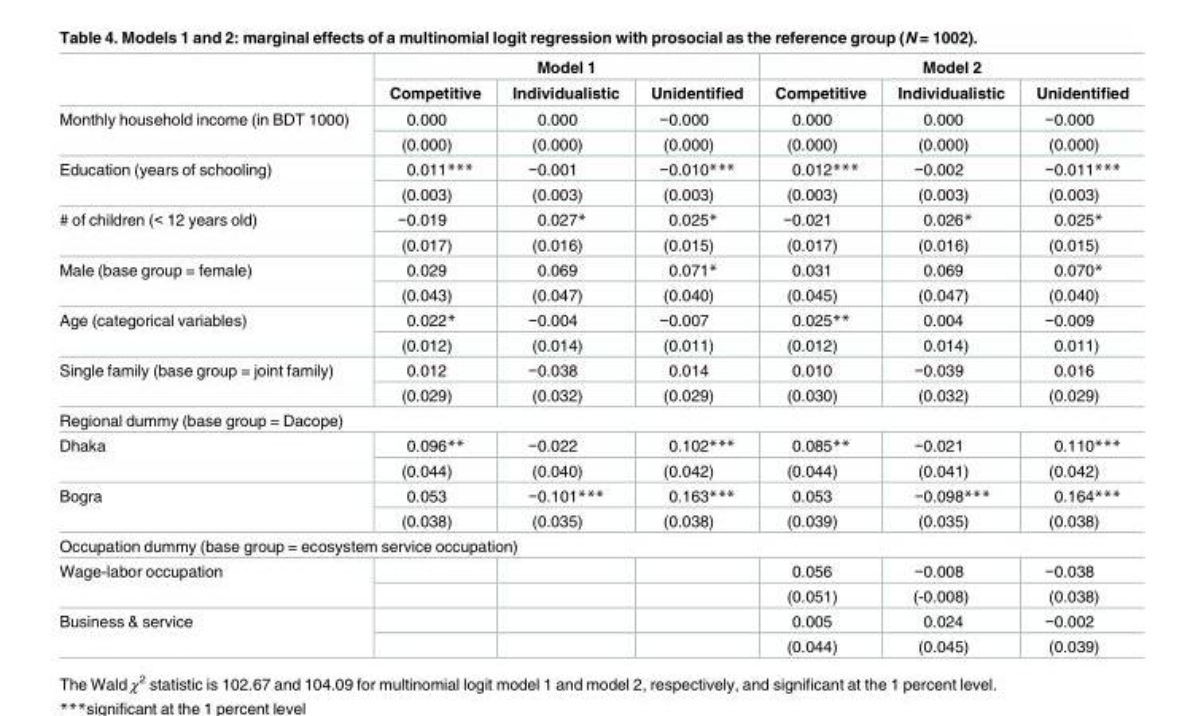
<table><thead><tr><td rowspan="2"></td><td colspan="3">Model 1</td><td colspan="3">Model 2</td></tr><tr><td>Competitive</td><td>Individualistic</td><td>Unidentified</td><td>Competitive</td><td>Individualistic</td><td>Unidentified</td></tr></thead><tbody><tr><td rowspan="2">Monthly household income (in BDT 1000)</td><td>0.000</td><td>0.000</td><td>−0.000</td><td>0.000</td><td>0.000</td><td>−0.000</td></tr><tr><td>(0.000)</td><td>(0.000)</td><td>(0.000)</td><td>(0.000)</td><td>(0.000)</td><td>(0.000)</td></tr><tr><td rowspan="2">Education (years of schooling)</td><td>0.011***</td><td>−0.001</td><td>−0.010***</td><td>0.012***</td><td>−0.002</td><td>−0.011***</td></tr><tr><td>(0.003)</td><td>(0.003)</td><td>(0.003)</td><td>(0.003)</td><td>(0.003)</td><td>(0.003)</td></tr><tr><td rowspan="2"># of children (&lt; 12 years old)</td><td>−0.019</td><td>0.027*</td><td>0.025*</td><td>−0.021</td><td>0.026*</td><td>0.025*</td></tr><tr><td>(0.017)</td><td>(0.016)</td><td>(0.015)</td><td>(0.017)</td><td>(0.016)</td><td>(0.015)</td></tr><tr><td rowspan="2">Male (base group = female)</td><td>0.029</td><td>0.069</td><td>0.071*</td><td>0.031</td><td>0.069</td><td>0.070*</td></tr><tr><td>(0.043)</td><td>(0.047)</td><td>(0.040)</td><td>(0.045)</td><td>(0.047)</td><td>(0.040)</td></tr><tr><td rowspan="2">Age (categorical variables)</td><td>0.022*</td><td>−0.004</td><td>−0.007</td><td>0.025**</td><td>0.004</td><td>−0.009</td></tr><tr><td>(0.012)</td><td>(0.014)</td><td>(0.011)</td><td>(0.012)</td><td>0.014)</td><td>0.011)</td></tr><tr><td rowspan="2">Single family (base group = joint family)</td><td>0.012</td><td>−0.038</td><td>0.014</td><td>0.010</td><td>−0.039</td><td>0.016</td></tr><tr><td>(0.029)</td><td>(0.032)</td><td>(0.029)</td><td>(0.030)</td><td>(0.032)</td><td>(0.029)</td></tr><tr><td colspan="7">Regional dummy (base group = Dacope)</td></tr><tr><td rowspan="2">Dhaka</td><td>0.096**</td><td>−0.022</td><td>0.102***</td><td>0.085**</td><td>−0.021</td><td>0.110***</td></tr><tr><td>(0.044)</td><td>(0.040)</td><td>(0.042)</td><td>(0.044)</td><td>(0.041)</td><td>(0.042)</td></tr><tr><td rowspan="2">Bogra</td><td>0.053</td><td>−0.101***</td><td>0.163***</td><td>0.053</td><td>−0.098***</td><td>0.164***</td></tr><tr><td>(0.038)</td><td>(0.035)</td><td>(0.038)</td><td>(0.039)</td><td>(0.035)</td><td>(0.038)</td></tr><tr><td colspan="7">Occupation dummy (base group = ecosystem service occupation)</td></tr><tr><td rowspan="2">Wage-labor occupation</td><td></td><td></td><td></td><td>0.056</td><td>−0.008</td><td>−0.038</td></tr><tr><td></td><td></td><td></td><td>(0.051)</td><td>(-0.008)</td><td>(0.038)</td></tr><tr><td rowspan="2">Business &amp; service</td><td></td><td></td><td></td><td>0.005</td><td>0.024</td><td>−0.002</td></tr><tr><td></td><td></td><td></td><td>(0.044)</td><td>(0.045)</td><td>(0.039)</td></tr></tbody></table>